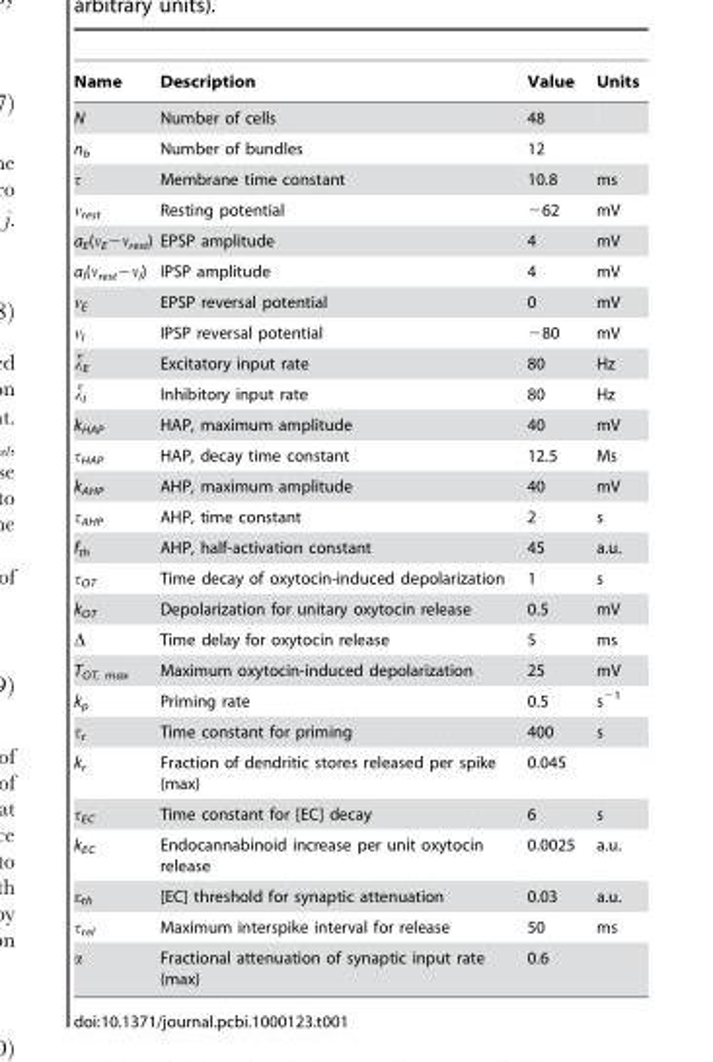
<table><thead><tr><td>Name</td><td>Description</td><td>Value</td><td>Units</td></tr></thead><tbody><tr><td>N</td><td>Number of cells</td><td>48</td><td></td></tr><tr><td>n<sub>b</sub></td><td>Number of bundles</td><td>12</td><td></td></tr><tr><td>τ</td><td>Membrane time constant</td><td>10.8</td><td>ms</td></tr><tr><td>ν<sub>rest</sub></td><td>Resting potential</td><td>−62</td><td>mV</td></tr><tr><td>a<sub>E</sub>(ν<sub>E</sub>−ν<sub>rest</sub>)</td><td>EPSP amplitude</td><td>4</td><td>mV</td></tr><tr><td>a<sub>I</sub>(ν<sub>rest</sub>−ν<sub>I</sub>)</td><td>IPSP amplitude</td><td>4</td><td>mV</td></tr><tr><td>ν<sub>E</sub></td><td>EPSP reversal potential</td><td>0</td><td>mV</td></tr><tr><td>ν<sub>I</sub></td><td>IPSP reversal potential</td><td>−80</td><td>mV</td></tr><tr><td>l¯E</td><td>Excitatory input rate</td><td>80</td><td>Hz</td></tr><tr><td>l¯I</td><td>Inhibitory input rate</td><td>80</td><td>Hz</td></tr><tr><td>k<sub>HAP</sub></td><td>HAP, maximum amplitude</td><td>40</td><td>mV</td></tr><tr><td>τ<sub>HAP</sub></td><td>HAP, decay time constant</td><td>12.5</td><td>Ms</td></tr><tr><td>k<sub>AHP</sub></td><td>AHP, maximum amplitude</td><td>40</td><td>mV</td></tr><tr><td>τ<sub>AHP</sub></td><td>AHP, time constant</td><td>2</td><td>s</td></tr><tr><td>f<sub>th</sub></td><td>AHP, half-activation constant</td><td>45</td><td>a.u.</td></tr><tr><td>τ<sub>OT</sub></td><td>Time decay of oxytocin-induced depolarization</td><td>1</td><td>s</td></tr><tr><td>k<sub>OT</sub></td><td>Depolarization for unitary oxytocin release</td><td>0.5</td><td>mV</td></tr><tr><td>Δ</td><td>Time delay for oxytocin release</td><td>5</td><td>ms</td></tr><tr><td>T<sub>OT, max</sub></td><td>Maximum oxytocin-induced depolarization</td><td>25</td><td>mV</td></tr><tr><td>k<sub>p</sub></td><td>Priming rate</td><td>0.5</td><td>s<sup>−1</sup></td></tr><tr><td>τ<sub>r</sub></td><td>Time constant for priming</td><td>400</td><td>s</td></tr><tr><td>k<sub>r</sub></td><td>Fraction of dendritic stores released per spike (max)</td><td>0.045</td><td></td></tr><tr><td>τ<sub>EC</sub></td><td>Time constant for [EC] decay</td><td>6</td><td>s</td></tr><tr><td>k<sub>EC</sub></td><td>Endocannabinoid increase per unit oxytocin release</td><td>0.0025</td><td>a.u.</td></tr><tr><td>ε<sub>th</sub></td><td>[EC] threshold for synaptic attenuation</td><td>0.03</td><td>a.u.</td></tr><tr><td>τ<sub>rel</sub></td><td>Maximum interspike interval for release</td><td>50</td><td>ms</td></tr><tr><td>α</td><td>Fractional attenuation of synaptic input rate (max)</td><td>0.6</td><td></td></tr></tbody></table>